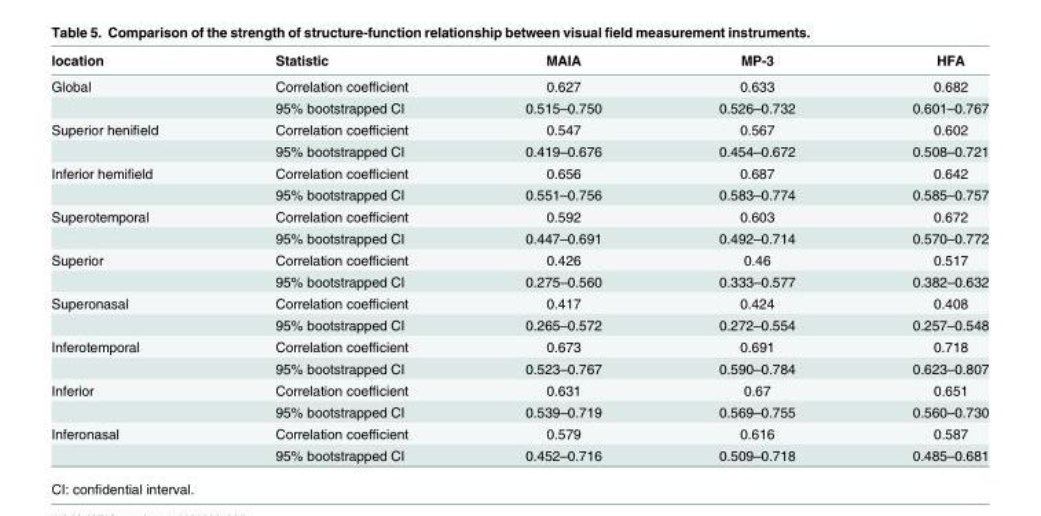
<table><thead><tr><td>location</td><td>Statistic</td><td>MAIA</td><td>MP-3</td><td>HFA</td></tr></thead><tbody><tr><td rowspan="2">Global</td><td>Correlation coefficient</td><td>0.627</td><td>0.633</td><td>0.682</td></tr><tr><td>95% bootstrapped CI</td><td>0.515–0.750</td><td>0.526–0.732</td><td>0.601–0.767</td></tr><tr><td rowspan="2">Superior henifield</td><td>Correlation coefficient</td><td>0.547</td><td>0.567</td><td>0.602</td></tr><tr><td>95% bootstrapped CI</td><td>0.419–0.676</td><td>0.454–0.672</td><td>0.508–0.721</td></tr><tr><td rowspan="2">Inferior hemifield</td><td>Correlation coefficient</td><td>0.656</td><td>0.687</td><td>0.642</td></tr><tr><td>95% bootstrapped CI</td><td>0.551–0.756</td><td>0.583–0.774</td><td>0.585–0.757</td></tr><tr><td rowspan="2">Superotemporal</td><td>Correlation coefficient</td><td>0.592</td><td>0.603</td><td>0.672</td></tr><tr><td>95% bootstrapped CI</td><td>0.447–0.691</td><td>0.492–0.714</td><td>0.570–0.772</td></tr><tr><td rowspan="2">Superior</td><td>Correlation coefficient</td><td>0.426</td><td>0.46</td><td>0.517</td></tr><tr><td>95% bootstrapped CI</td><td>0.275–0.560</td><td>0.333–0.577</td><td>0.382–0.632</td></tr><tr><td rowspan="2">Superonasal</td><td>Correlation coefficient</td><td>0.417</td><td>0.424</td><td>0.408</td></tr><tr><td>95% bootstrapped CI</td><td>0.265–0.572</td><td>0.272–0.554</td><td>0.257–0.548</td></tr><tr><td rowspan="2">Inferotemporal</td><td>Correlation coefficient</td><td>0.673</td><td>0.691</td><td>0.718</td></tr><tr><td>95% bootstrapped CI</td><td>0.523–0.767</td><td>0.590–0.784</td><td>0.623–0.807</td></tr><tr><td rowspan="2">Inferior</td><td>Correlation coefficient</td><td>0.631</td><td>0.67</td><td>0.651</td></tr><tr><td>95% bootstrapped CI</td><td>0.539–0.719</td><td>0.569–0.755</td><td>0.560–0.730</td></tr><tr><td rowspan="2">Inferonasal</td><td>Correlation coefficient</td><td>0.579</td><td>0.616</td><td>0.587</td></tr><tr><td>95% bootstrapped CI</td><td>0.452–0.716</td><td>0.509–0.718</td><td>0.485–0.681</td></tr></tbody></table>